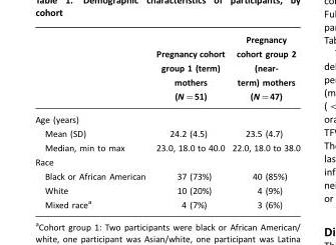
<table><thead><tr><td></td><td>Pregnancy cohort group 1 (term) mothers (N=51)</td><td>Pregnancy cohort group 2 (near- term) mothers (N=47)</td></tr></thead><tbody><tr><td colspan="3">Age (years)</td></tr><tr><td>Mean (SD)</td><td>24.2 (4.5)</td><td>23.5 (4.7)</td></tr><tr><td>Median, min to max</td><td>23.0, 18.0 to 40.0</td><td>22.0, 18.0 to 38.0</td></tr><tr><td colspan="3">Race</td></tr><tr><td>Black or African American</td><td>37 (73%)</td><td>40 (85%)</td></tr><tr><td>White</td><td>10 (20%)</td><td>4 (9%)</td></tr><tr><td>Mixed race<sup>a</sup></td><td>4 (7%)</td><td>3 (6%)</td></tr></tbody></table>